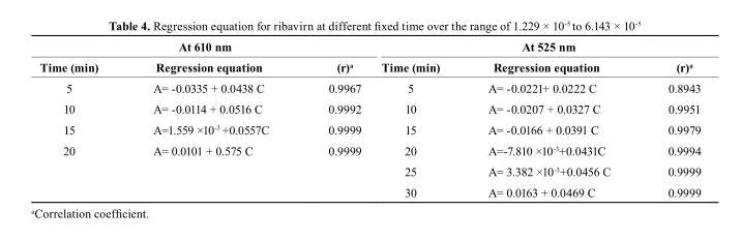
<table><thead><tr><td colspan="3">At 610 nm</td><td colspan="3">At 525 nm</td></tr><tr><td>time (min)</td><td>regression equation</td><td>(r)<sup>a</sup></td><td>time (min)</td><td>regression equation</td><td>(r)<sup>a</sup></td></tr></thead><tbody><tr><td>5</td><td>A= -0.0335 + 0.0438 C</td><td>0.9967</td><td>5</td><td>A= -0.0221+ 0.0222 C</td><td>0.8943</td></tr><tr><td>10</td><td>A= -0.0114 + 0.0516 C</td><td>0.9992</td><td>10</td><td>A= -0.0207 + 0.0327 C</td><td>0.9951</td></tr><tr><td>15</td><td>A=1.559 ×10<sup>-3</sup> +0.0557C</td><td>0.9999</td><td>15</td><td>A= -0.0166 + 0.0391 C</td><td>0.9979</td></tr><tr><td rowspan="3">20</td><td>A= 0.0101 + 0.575 C</td><td>0.9999</td><td>20</td><td>A=-7.810 ×10<sup>-3</sup>+0.0431C</td><td>0.9994</td></tr><tr><td></td><td></td><td>25</td><td>A= 3.382 ×10<sup>-3</sup>+0.0456 C</td><td>0.9999</td></tr><tr><td></td><td></td><td>30</td><td>A= 0.0163 + 0.0469 C</td><td>0.9999</td></tr></tbody></table>